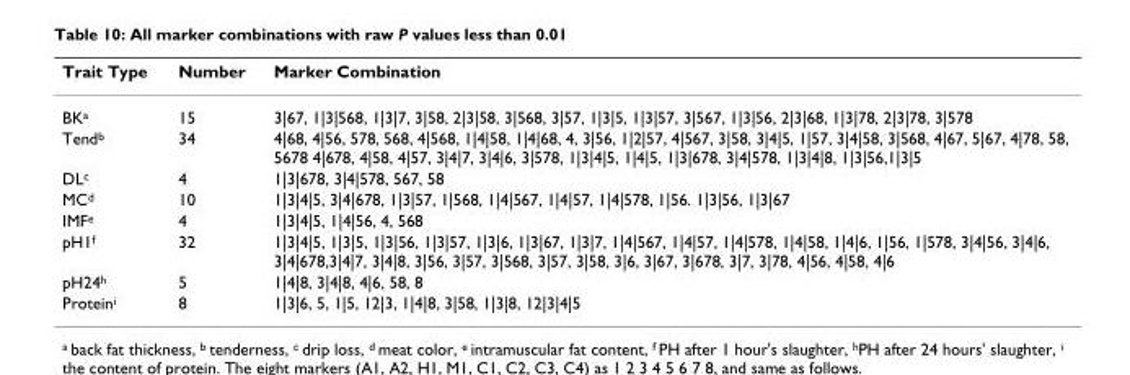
<table><thead><tr><td>Trait Type</td><td>Number</td><td>Marker Combination</td></tr></thead><tbody><tr><td>BK<sup>a</sup></td><td>15</td><td>3|67, 1|3|568, 1|3|7, 3|58, 2|3|58, 3|568, 3|57, 1|3|5, 1|3|57, 3|567, 1|3|56, 2|3|68, 1|3|78, 2|3|78, 3|578</td></tr><tr><td>Tend<sup>b</sup></td><td>34</td><td>4|68, 4|56, 578, 568, 4|568, 1|4|58, 1|4|68, 4, 3|56, 1|2|57, 4|567, 3|58, 3|4|5, 1|57, 3|4|58, 3|568, 4|67, 5|67, 4|78, 58, 5678 4|678, 4|58, 4|57, 3|4|7, 3|4|6, 3|578, 1|3|4|5, 1|4|5, 1|3|678, 3|4|578, 1|3|4|8, 1|3|56,1|3|5</td></tr><tr><td>DL<sup>c</sup></td><td>4</td><td>1|3|678, 3|4|578, 567, 58</td></tr><tr><td>MC<sup>d</sup></td><td>10</td><td>1|3|4|5, 3|4|678, 1|3|57, 1|568, 1|4|567, 1|4|57, 1|4|578, 1|56. 1|3|56, 1|3|67</td></tr><tr><td>IMF<sup>e</sup></td><td>4</td><td>1|3|4|5, 1|4|56, 4, 568</td></tr><tr><td>pH1<sup>f</sup></td><td>32</td><td>1|3|4|5, 1|3|5, 1|3|56, 1|3|57, 1|3|6, 1|3|67, 1|3|7, 1|4|567, 1|4|57, 1|4|578, 1|4|58, 1|4|6, 1|56, 1|578, 3|4|56, 3|4|6, 3|4|678,3|4|7, 3|4|8, 3|56, 3|57, 3|568, 3|57, 3|58, 3|6, 3|67, 3|678, 3|7, 3|78, 4|56, 4|58, 4|6</td></tr><tr><td>pH24<sup>h</sup></td><td>5</td><td>1|4|8, 3|4|8, 4|6, 58, 8</td></tr><tr><td>Protein<sup>i</sup></td><td>8</td><td>1|3|6, 5, 1|5, 12|3, 1|4|8, 3|58, 1|3|8, 12|3|4|5</td></tr></tbody></table>